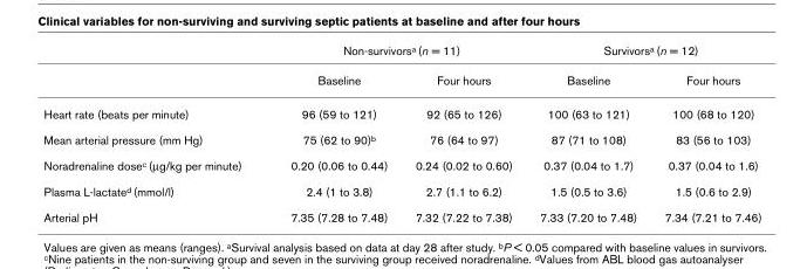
<table><thead><tr><td rowspan="2"></td><td colspan="2">Non-survivorsa (n = 11)</td><td colspan="2">Survivorsa (n = 12)</td></tr><tr><td>Baseline</td><td>Four hours</td><td>Baseline</td><td>Four hours</td></tr></thead><tbody><tr><td>Heart rate (beats per minute)</td><td>96 (59 to 121)</td><td>92 (65 to 126)</td><td>100 (63 to 121)</td><td>100 (68 to 120)</td></tr><tr><td>Mean arterial pressure (mm Hg)</td><td>75 (62 to 90)b</td><td>76 (64 to 97)</td><td>87 (71 to 108)</td><td>83 (56 to 103)</td></tr><tr><td>Noradrenaline dosec (μg/kg per minute)</td><td>0.20 (0.06 to 0.44)</td><td>0.24 (0.02 to 0.60)</td><td>0.37 (0.04 to 1.7)</td><td>0.37 (0.04 to 1.6)</td></tr><tr><td>Plasma L-lactated (mmol/l)</td><td>2.4 (1 to 3.8)</td><td>2.7 (1.1 to 6.2)</td><td>1.5 (0.5 to 3.6)</td><td>1.5 (0.6 to 2.9)</td></tr><tr><td>Arterial pH</td><td>7.35 (7.28 to 7.48)</td><td>7.32 (7.22 to 7.38)</td><td>7.33 (7.20 to 7.48)</td><td>7.34 (7.21 to 7.46)</td></tr></tbody></table>